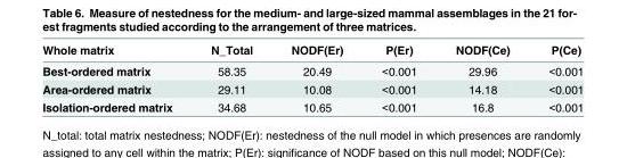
<table><thead><tr><td>Whole matrix</td><td>N_Total</td><td>NODF(Er)</td><td>P(Er)</td><td>NODF(Ce)</td><td>P(Ce)</td></tr></thead><tbody><tr><td>Best-ordered matrix</td><td>58.35</td><td>20.49</td><td>&lt;0.001</td><td>29.96</td><td>&lt;0.001</td></tr><tr><td>Area-ordered matrix</td><td>29.11</td><td>10.08</td><td>&lt;0.001</td><td>14.18</td><td>&lt;0.001</td></tr><tr><td>Isolation-ordered matrix</td><td>34.68</td><td>10.65</td><td>&lt;0.001</td><td>16.8</td><td>&lt;0.001</td></tr></tbody></table>